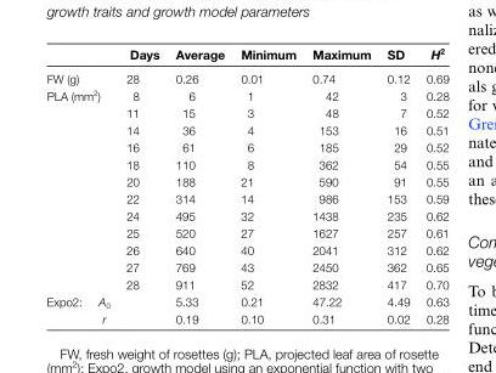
<table><thead><tr><td></td><td></td><td>Days</td><td>Average</td><td>Minimum</td><td>Maximum</td><td>SD</td><td>H<sup>2</sup></td></tr></thead><tbody><tr><td colspan="2">FW (g)</td><td>28</td><td>0.26</td><td>0.01</td><td>0.74</td><td>0.12</td><td>0.69</td></tr><tr><td rowspan="12" colspan="2">PLA (mm<sup>2</sup>)</td><td>8</td><td>6</td><td>1</td><td>42</td><td>3</td><td>0.28</td></tr><tr><td>11</td><td>15</td><td>3</td><td>48</td><td>7</td><td>0.52</td></tr><tr><td>14</td><td>36</td><td>4</td><td>153</td><td>16</td><td>0.51</td></tr><tr><td>16</td><td>61</td><td>6</td><td>185</td><td>29</td><td>0.52</td></tr><tr><td>18</td><td>110</td><td>8</td><td>362</td><td>54</td><td>0.55</td></tr><tr><td>20</td><td>188</td><td>21</td><td>590</td><td>91</td><td>0.55</td></tr><tr><td>22</td><td>314</td><td>14</td><td>986</td><td>153</td><td>0.59</td></tr><tr><td>24</td><td>495</td><td>32</td><td>1438</td><td>235</td><td>0.62</td></tr><tr><td>25</td><td>520</td><td>27</td><td>1627</td><td>257</td><td>0.61</td></tr><tr><td>26</td><td>640</td><td>40</td><td>2041</td><td>312</td><td>0.62</td></tr><tr><td>27</td><td>769</td><td>43</td><td>2450</td><td>362</td><td>0.65</td></tr><tr><td>28</td><td>911</td><td>52</td><td>2832</td><td>417</td><td>0.70</td></tr><tr><td rowspan="2">Expo2:</td><td>A<sub>0</sub></td><td></td><td>5.33</td><td>0.21</td><td>47.22</td><td>4.49</td><td>0.63</td></tr><tr><td>r</td><td></td><td>0.19</td><td>0.10</td><td>0.31</td><td>0.02</td><td>0.28</td></tr></tbody></table>